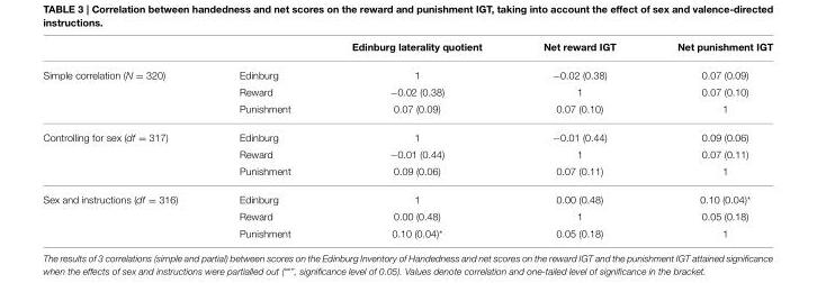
<table><thead><tr><td></td><td></td><td>Edinburg laterality quotient</td><td>Net reward IGT</td><td>Net punishment IGT</td></tr></thead><tbody><tr><td rowspan="3">Simple correlation (N = 320)</td><td>Edinburg</td><td>1</td><td>−0.02 (0.38)</td><td>0.07 (0.09)</td></tr><tr><td>Reward</td><td>−0.02 (0.38)</td><td>1</td><td>0.07 (0.10)</td></tr><tr><td>Punishment</td><td>0.07 (0.09)</td><td>0.07 (0.10)</td><td>1</td></tr><tr><td rowspan="3">Controlling for sex (df = 317)</td><td>Edinburg</td><td>1</td><td>−0.01 (0.44)</td><td>0.09 (0.06)</td></tr><tr><td>Reward</td><td>−0.01 (0.44)</td><td>1</td><td>0.07 (0.11)</td></tr><tr><td>Punishment</td><td>0.09 (0.06)</td><td>0.07 (0.11)</td><td>1</td></tr><tr><td rowspan="3">Sex and instructions (df = 316)</td><td>Edinburg</td><td>1</td><td>0.00 (0.48)</td><td>0.10 (0.04)*</td></tr><tr><td>Reward</td><td>0.00 (0.48)</td><td>1</td><td>0.05 (0.18)</td></tr><tr><td>Punishment</td><td>0.10 (0.04)*</td><td>0.05 (0.18)</td><td>1</td></tr></tbody></table>